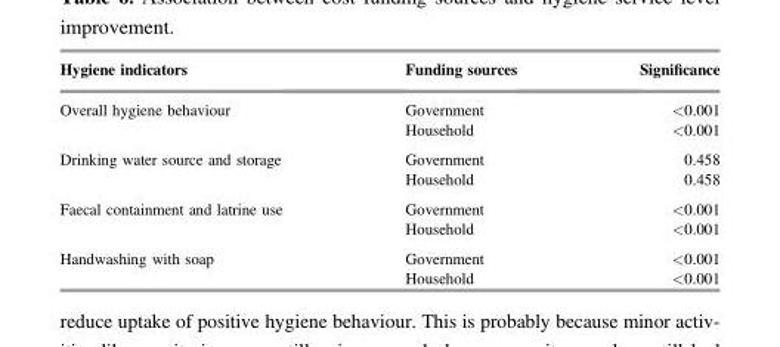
<table><thead><tr><td>Hygiene indicators</td><td>Funding sources</td><td>Significance</td></tr></thead><tbody><tr><td rowspan="2">Overall hygiene behaviour</td><td>Government</td><td>&lt;0.001</td></tr><tr><td>Household</td><td>&lt;0.001</td></tr><tr><td rowspan="2">Drinking water source and storage</td><td>Government</td><td>0.458</td></tr><tr><td>Household</td><td>0.458</td></tr><tr><td rowspan="2">Faecal containment and latrine use</td><td>Government</td><td>&lt;0.001</td></tr><tr><td>Household</td><td>&lt;0.001</td></tr><tr><td rowspan="2">Handwashing with soap</td><td>Government</td><td>&lt;0.001</td></tr><tr><td>Household</td><td>&lt;0.001</td></tr></tbody></table>